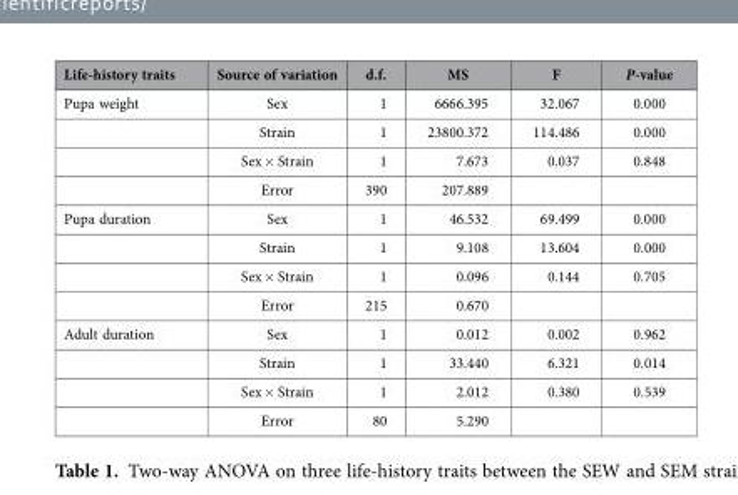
<table><thead><tr><td>Life-history traits</td><td>Source of variation</td><td>d.f.</td><td>MS</td><td>F</td><td>P-value</td></tr></thead><tbody><tr><td rowspan="4">Pupa weight</td><td>Sex</td><td>1</td><td>6666.395</td><td>32.067</td><td>0.000</td></tr><tr><td>Strain</td><td>1</td><td>23800.372</td><td>114.486</td><td>0.000</td></tr><tr><td>Sex × Strain</td><td>1</td><td>7.673</td><td>0.037</td><td>0.848</td></tr><tr><td>Error</td><td>390</td><td>207.889</td><td></td><td></td></tr><tr><td rowspan="4">Pupa duration</td><td>Sex</td><td>1</td><td>46.532</td><td>69.499</td><td>0.000</td></tr><tr><td>Strain</td><td>1</td><td>9.108</td><td>13.604</td><td>0.000</td></tr><tr><td>Sex × Strain</td><td>1</td><td>0.096</td><td>0.144</td><td>0.705</td></tr><tr><td>Error</td><td>215</td><td>0.670</td><td></td><td></td></tr><tr><td rowspan="4">Adult duration</td><td>Sex</td><td>1</td><td>0.012</td><td>0.002</td><td>0.962</td></tr><tr><td>Strain</td><td>1</td><td>33.440</td><td>6.321</td><td>0.014</td></tr><tr><td>Sex × Strain</td><td>1</td><td>2.012</td><td>0.380</td><td>0.539</td></tr><tr><td>Error</td><td>80</td><td>5.290</td><td></td><td></td></tr></tbody></table>